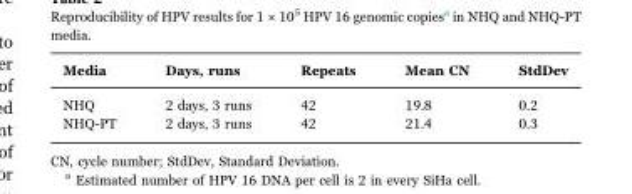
<table><thead><tr><td>Media</td><td>Days, runs</td><td>Repeats</td><td>Mean CN</td><td>StdDev</td></tr></thead><tbody><tr><td>NHQ</td><td>2 days, 3 runs</td><td>42</td><td>19.8</td><td>0.2</td></tr><tr><td>NHQ-PT</td><td>2 days, 3 runs</td><td>42</td><td>21.4</td><td>0.3</td></tr></tbody></table>